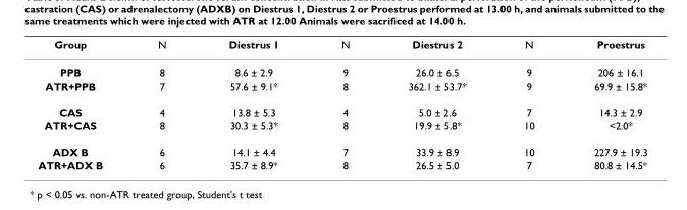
<table><thead><tr><td>Group</td><td>N</td><td>Diestrus 1</td><td>N</td><td>Diestrus 2</td><td>N</td><td>Proestrus</td></tr></thead><tbody><tr><td>PPB</td><td>8</td><td>8.6 ± 2.9</td><td>9</td><td>26.0 ± 6.5</td><td>9</td><td>206 ± 16.1</td></tr><tr><td>ATR+PPB</td><td>7</td><td>57.6 ± 9.1*</td><td>8</td><td>362.1 ± 53.7*</td><td>9</td><td>69.9 ± 15.8*</td></tr><tr><td>CAS</td><td>4</td><td>13.8 ± 5.3</td><td>4</td><td>5.0 ± 2.6</td><td>7</td><td>14.3 ± 2.9</td></tr><tr><td>ATR+CAS</td><td>8</td><td>30.3 ± 5.3*</td><td>8</td><td>19.9 ± 5.8*</td><td>10</td><td>&lt;2.0*</td></tr><tr><td>ADX B</td><td>6</td><td>14.1 ± 4.4</td><td>7</td><td>33.9 ± 8.9</td><td>10</td><td>227.9 ± 19.3</td></tr><tr><td>ATR+ADX B</td><td>6</td><td>35.7 ± 8.9*</td><td>8</td><td>26.5 ± 5.0</td><td>7</td><td>80.8 ± 14.5*</td></tr></tbody></table>